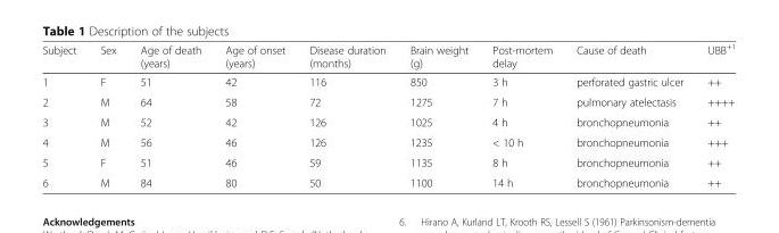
<table><thead><tr><td>Subject</td><td>Sex</td><td>Age of death (years)</td><td>Age of onset (years)</td><td>Disease duration (months)</td><td>Brain weight (g)</td><td>Post-mortem delay</td><td>Cause of death</td><td>UBB<sup>+1</sup></td></tr></thead><tbody><tr><td>1</td><td>F</td><td>51</td><td>42</td><td>116</td><td>850</td><td>3 h</td><td>perforated gastric ulcer</td><td>++</td></tr><tr><td>2</td><td>M</td><td>64</td><td>58</td><td>72</td><td>1275</td><td>7 h</td><td>pulmonary atelectasis</td><td>++++</td></tr><tr><td>3</td><td>M</td><td>52</td><td>42</td><td>126</td><td>1025</td><td>4 h</td><td>bronchopneumonia</td><td>++</td></tr><tr><td>4</td><td>M</td><td>56</td><td>46</td><td>126</td><td>1235</td><td>&lt; 10 h</td><td>bronchopneumonia</td><td>+++</td></tr><tr><td>5</td><td>F</td><td>51</td><td>46</td><td>59</td><td>1135</td><td>8 h</td><td>bronchopneumonia</td><td>++</td></tr><tr><td>6</td><td>M</td><td>84</td><td>80</td><td>50</td><td>1100</td><td>14 h</td><td>bronchopneumonia</td><td>++</td></tr></tbody></table>